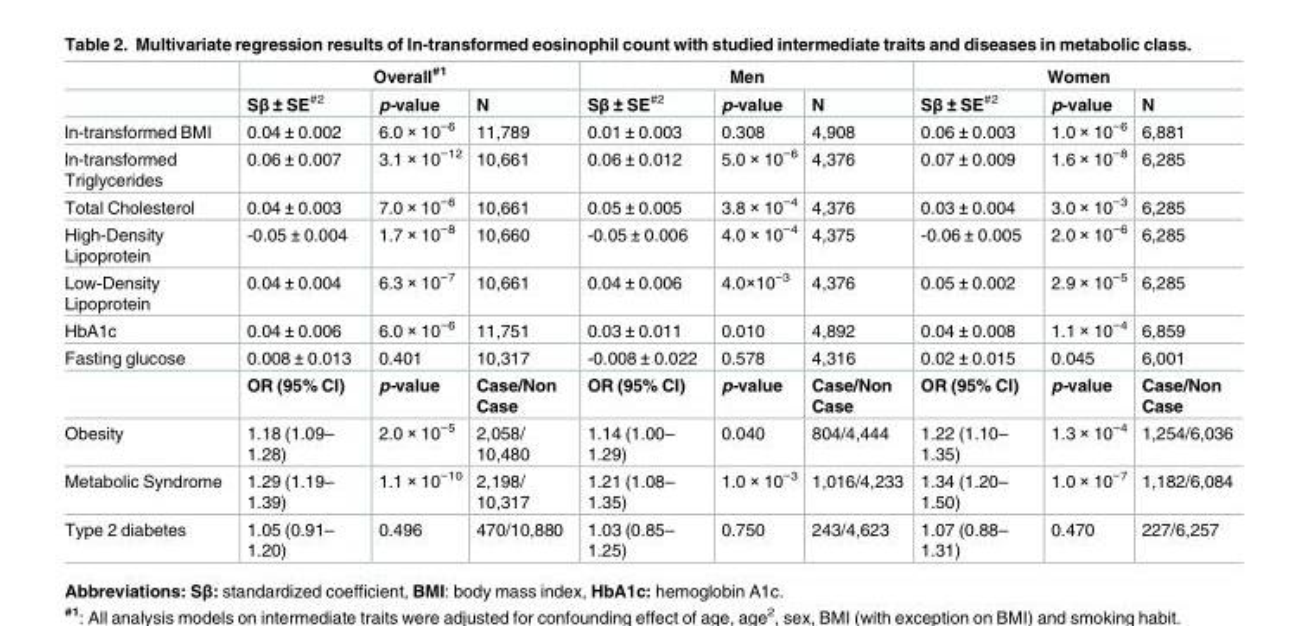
<table><thead><tr><td rowspan="2"></td><td colspan="3">Overall<sup>#1</sup></td><td colspan="3">Men</td><td colspan="3">Women</td></tr><tr><td>Sβ ± SE<sup>#2</sup></td><td>p-value</td><td>N</td><td>Sβ ± SE<sup>#2</sup></td><td>p-value</td><td>N</td><td>Sβ ± SE<sup>#2</sup></td><td>p-value</td><td>N</td></tr></thead><tbody><tr><td>ln-transformed BMI</td><td>0.04 ± 0.002</td><td>6.0 × 10<sup>−6</sup></td><td>11,789</td><td>0.01 ± 0.003</td><td>0.308</td><td>4,908</td><td>0.06 ± 0.003</td><td>1.0 × 10<sup>−6</sup></td><td>6,881</td></tr><tr><td>ln-transformed Triglycerides</td><td>0.06 ± 0.007</td><td>3.1 × 10<sup>−12</sup></td><td>10,661</td><td>0.06 ± 0.012</td><td>5.0 × 10<sup>−6</sup></td><td>4,376</td><td>0.07 ± 0.009</td><td>1.6 × 10<sup>−8</sup></td><td>6,285</td></tr><tr><td>Total Cholesterol</td><td>0.04 ± 0.003</td><td>7.0 × 10<sup>−6</sup></td><td>10,661</td><td>0.05 ± 0.005</td><td>3.8 × 10<sup>−4</sup></td><td>4,376</td><td>0.03 ± 0.004</td><td>3.0 × 10<sup>−3</sup></td><td>6,285</td></tr><tr><td>High-Density Lipoprotein</td><td>-0.05 ± 0.004</td><td>1.7 × 10<sup>−8</sup></td><td>10,660</td><td>-0.05 ± 0.006</td><td>4.0 × 10<sup>−4</sup></td><td>4,375</td><td>-0.06 ± 0.005</td><td>2.0 × 10<sup>−6</sup></td><td>6,285</td></tr><tr><td>Low-Density Lipoprotein</td><td>0.04 ± 0.004</td><td>6.3 × 10<sup>−7</sup></td><td>10,661</td><td>0.04 ± 0.006</td><td>4.0×10<sup>−3</sup></td><td>4,376</td><td>0.05 ± 0.002</td><td>2.9 × 10<sup>−5</sup></td><td>6,285</td></tr><tr><td>HbA1c</td><td>0.04 ± 0.006</td><td>6.0 × 10<sup>−6</sup></td><td>11,751</td><td>0.03 ± 0.011</td><td>0.010</td><td>4,892</td><td>0.04 ± 0.008</td><td>1.1 × 10<sup>−4</sup></td><td>6,859</td></tr><tr><td rowspan="2">Fasting glucose</td><td>0.008 ± 0.013</td><td>0.401</td><td>10,317</td><td>-0.008 ± 0.022</td><td>0.578</td><td>4,316</td><td>0.02 ± 0.015</td><td>0.045</td><td>6,001</td></tr><tr><td>OR (95% CI)</td><td>p-value</td><td>Case/Non Case</td><td>OR (95% CI)</td><td>p-value</td><td>Case/Non Case</td><td>OR (95% CI)</td><td>p-value</td><td>Case/Non Case</td></tr><tr><td>Obesity</td><td>1.18 (1.09– 1.28)</td><td>2.0 × 10<sup>−5</sup></td><td>2,058/ 10,480</td><td>1.14 (1.00– 1.29)</td><td>0.040</td><td>804/4,444</td><td>1.22 (1.10– 1.35)</td><td>1.3 × 10<sup>−4</sup></td><td>1,254/6,036</td></tr><tr><td>Metabolic Syndrome</td><td>1.29 (1.19– 1.39)</td><td>1.1 × 10<sup>−10</sup></td><td>2,198/ 10,317</td><td>1.21 (1.08– 1.35)</td><td>1.0 × 10<sup>−3</sup></td><td>1,016/4,233</td><td>1.34 (1.20– 1.50)</td><td>1.0 × 10<sup>−7</sup></td><td>1,182/6,084</td></tr><tr><td>Type 2 diabetes</td><td>1.05 (0.91– 1.20)</td><td>0.496</td><td>470/10,880</td><td>1.03 (0.85– 1.25)</td><td>0.750</td><td>243/4,623</td><td>1.07 (0.88– 1.31)</td><td>0.470</td><td>227/6,257</td></tr></tbody></table>